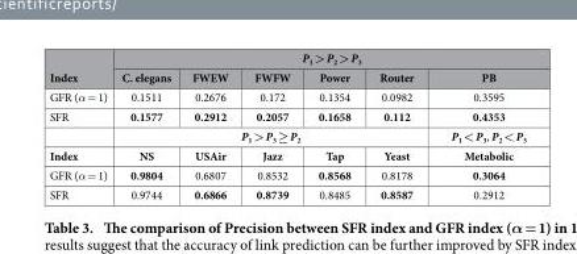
<table><thead><tr><td rowspan="2">Index</td><td colspan="6">P<sub>1</sub> &gt; P<sub>2</sub> &gt; P<sub>3</sub></td></tr><tr><td>C. elegans</td><td>FWEW</td><td>FWFW</td><td>Power</td><td>Router</td><td>PB</td></tr></thead><tbody><tr><td>GFR (α = 1)</td><td>0.1511</td><td>0.2676</td><td>0.172</td><td>0.1354</td><td>0.0982</td><td>0.3595</td></tr><tr><td rowspan="2">SFR</td><td>0.1577</td><td>0.2912</td><td>0.2057</td><td>0.1658</td><td>0.112</td><td>0.4353</td></tr><tr><td colspan="5">P<sub>1</sub> &gt; P<sub>3</sub> ≥ P<sub>2</sub></td><td>P<sub>1</sub> &lt; P<sub>3</sub>, P<sub>2</sub> &lt; P<sub>3</sub></td></tr><tr><td>Index</td><td>NS</td><td>USAir</td><td>Jazz</td><td>Tap</td><td>Yeast</td><td>Metabolic</td></tr><tr><td>GFR (α = 1)</td><td>0.9804</td><td>0.6807</td><td>0.8532</td><td>0.8568</td><td>0.8178</td><td>0.3064</td></tr><tr><td>SFR</td><td>0.9744</td><td>0.6866</td><td>0.8739</td><td>0.8485</td><td>0.8587</td><td>0.2912</td></tr></tbody></table>